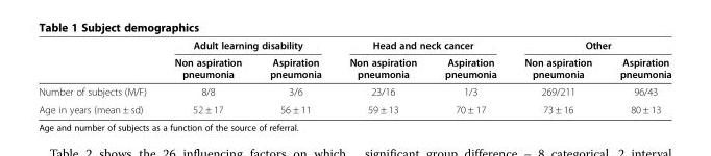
<table><thead><tr><td rowspan="2"></td><td colspan="2">Adult learning disability</td><td colspan="2">Head and neck cancer</td><td colspan="2">Other</td></tr><tr><td>Non aspiration pneumonia</td><td>Aspiration pneumonia</td><td>Non aspiration pneumonia</td><td>Aspiration pneumonia</td><td>Non aspiration pneumonia</td><td>Aspiration pneumonia</td></tr></thead><tbody><tr><td>Number of subjects (M/F)</td><td>8/8</td><td>3/6</td><td>23/16</td><td>1/3</td><td>269/211</td><td>96/43</td></tr><tr><td>Age in years (mean ± sd)</td><td>52 ± 17</td><td>56 ± 11</td><td>59 ± 13</td><td>70 ± 17</td><td>73 ± 16</td><td>80 ± 13</td></tr></tbody></table>